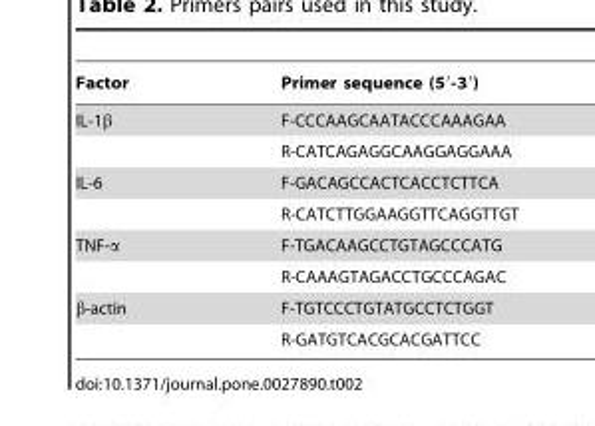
<table><thead><tr><td>Factor</td><td>Primer sequence (5′-3′)</td></tr></thead><tbody><tr><td rowspan="2">IL-1β</td><td>F-CCCAAGCAATACCCAAAGAA</td></tr><tr><td>R-CATCAGAGGCAAGGAGGAAA</td></tr><tr><td rowspan="2">IL-6</td><td>F-GACAGCCACTCACCTCTTCA</td></tr><tr><td>R-CATCTTGGAAGGTTCAGGTTGT</td></tr><tr><td rowspan="2">TNF-α</td><td>F-TGACAAGCCTGTAGCCCATG</td></tr><tr><td>R-CAAAGTAGACCTGCCCAGAC</td></tr><tr><td rowspan="2">β-actin</td><td>F-TGTCCCTGTATGCCTCTGGT</td></tr><tr><td>R-GATGTCACGCACGATTCC</td></tr></tbody></table>